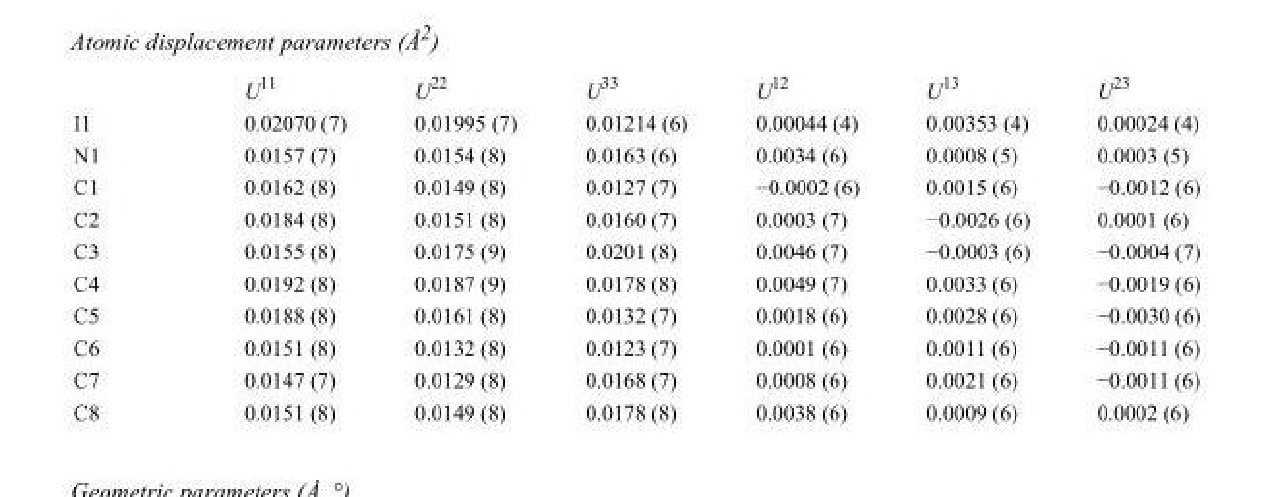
<table><thead><tr><td></td><td>U<sup>11</sup></td><td>U<sup>22</sup></td><td>U<sup>33</sup></td><td>U<sup>12</sup></td><td>U<sup>13</sup></td><td>U<sup>23</sup></td></tr></thead><tbody><tr><td>I1</td><td>0.02070 (7)</td><td>0.01995 (7)</td><td>0.01214 (6)</td><td>0.00044 (4)</td><td>0.00353 (4)</td><td>0.00024 (4)</td></tr><tr><td>N1</td><td>0.0157 (7)</td><td>0.0154 (8)</td><td>0.0163 (6)</td><td>0.0034 (6)</td><td>0.0008 (5)</td><td>0.0003 (5)</td></tr><tr><td>C1</td><td>0.0162 (8)</td><td>0.0149 (8)</td><td>0.0127 (7)</td><td>−0.0002 (6)</td><td>0.0015 (6)</td><td>−0.0012 (6)</td></tr><tr><td>C2</td><td>0.0184 (8)</td><td>0.0151 (8)</td><td>0.0160 (7)</td><td>0.0003 (7)</td><td>−0.0026 (6)</td><td>0.0001 (6)</td></tr><tr><td>C3</td><td>0.0155 (8)</td><td>0.0175 (9)</td><td>0.0201 (8)</td><td>0.0046 (7)</td><td>−0.0003 (6)</td><td>−0.0004 (7)</td></tr><tr><td>C4</td><td>0.0192 (8)</td><td>0.0187 (9)</td><td>0.0178 (8)</td><td>0.0049 (7)</td><td>0.0033 (6)</td><td>−0.0019 (6)</td></tr><tr><td>C5</td><td>0.0188 (8)</td><td>0.0161 (8)</td><td>0.0132 (7)</td><td>0.0018 (6)</td><td>0.0028 (6)</td><td>−0.0030 (6)</td></tr><tr><td>C6</td><td>0.0151 (8)</td><td>0.0132 (8)</td><td>0.0123 (7)</td><td>0.0001 (6)</td><td>0.0011 (6)</td><td>−0.0011 (6)</td></tr><tr><td>C7</td><td>0.0147 (7)</td><td>0.0129 (8)</td><td>0.0168 (7)</td><td>0.0008 (6)</td><td>0.0021 (6)</td><td>−0.0011 (6)</td></tr><tr><td>C8</td><td>0.0151 (8)</td><td>0.0149 (8)</td><td>0.0178 (8)</td><td>0.0038 (6)</td><td>0.0009 (6)</td><td>0.0002 (6)</td></tr></tbody></table>